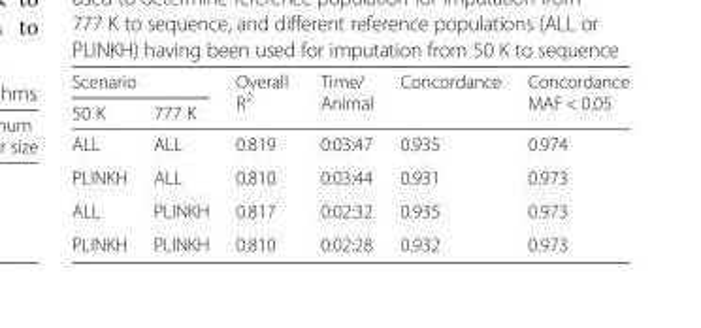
<table><thead><tr><td colspan="2">Scenario</td><td rowspan="2">Overall R<sup>2</sup></td><td rowspan="2">Time/ Animal</td><td rowspan="2">Concordance</td><td rowspan="2">Concordance MAF &lt; 0.05</td></tr><tr><td>50 K</td><td>777 K</td></tr></thead><tbody><tr><td>ALL</td><td>ALL</td><td>0.819</td><td>0:03:47</td><td>0.935</td><td>0.974</td></tr><tr><td>PLINKH</td><td>ALL</td><td>0.810</td><td>0:03:44</td><td>0.931</td><td>0.973</td></tr><tr><td>ALL</td><td>PLINKH</td><td>0.817</td><td>0:02:32</td><td>0.935</td><td>0.973</td></tr><tr><td>PLINKH</td><td>PLINKH</td><td>0.810</td><td>0:02:28</td><td>0.932</td><td>0.973</td></tr></tbody></table>